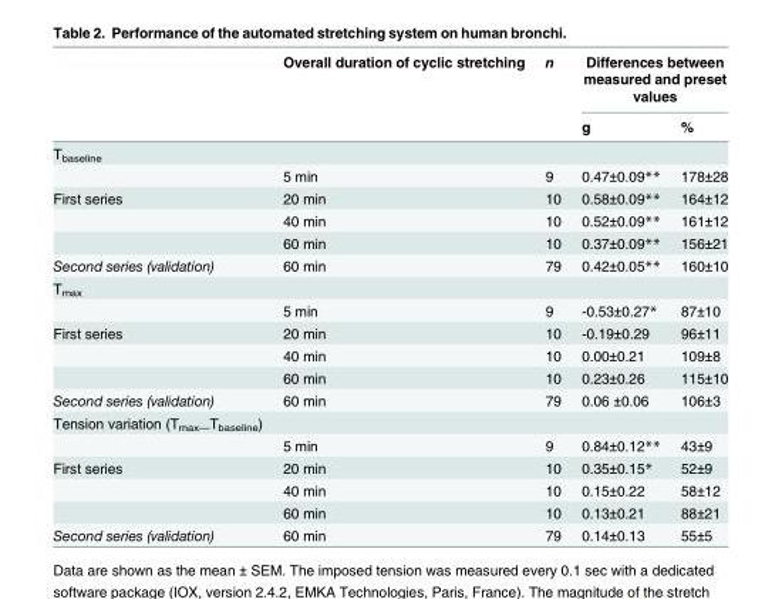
<table><thead><tr><td rowspan="2"></td><td rowspan="2">Overall duration of cyclic stretching</td><td rowspan="2">n</td><td colspan="2">Differences between measured and preset values</td></tr><tr><td>g</td><td>%</td></tr></thead><tbody><tr><td colspan="5">T<sub>baseline</sub></td></tr><tr><td></td><td>5 min</td><td>9</td><td>0.47±0.09**</td><td>178±28</td></tr><tr><td rowspan="3">First series</td><td>20 min</td><td>10</td><td>0.58±0.09**</td><td>164±12</td></tr><tr><td>40 min</td><td>10</td><td>0.52±0.09**</td><td>161±12</td></tr><tr><td>60 min</td><td>10</td><td>0.37±0.09**</td><td>156±21</td></tr><tr><td>Second series (validation)</td><td>60 min</td><td>79</td><td>0.42±0.05**</td><td>160±10</td></tr><tr><td colspan="5">T<sub>max</sub></td></tr><tr><td></td><td>5 min</td><td>9</td><td>-0.53±0.27*</td><td>87±10</td></tr><tr><td rowspan="3">First series</td><td>20 min</td><td>10</td><td>-0.19±0.29</td><td>96±11</td></tr><tr><td>40 min</td><td>10</td><td>0.00±0.21</td><td>109±8</td></tr><tr><td>60 min</td><td>10</td><td>0.23±0.26</td><td>115±10</td></tr><tr><td>Second series (validation)</td><td>60 min</td><td>79</td><td>0.06 ±0.06</td><td>106±3</td></tr><tr><td colspan="5">Tension variation (T<sub>max—</sub>T<sub>baseline</sub>)</td></tr><tr><td></td><td>5 min</td><td>9</td><td>0.84±0.12**</td><td>43±9</td></tr><tr><td rowspan="3">First series</td><td>20 min</td><td>10</td><td>0.35±0.15*</td><td>52±9</td></tr><tr><td>40 min</td><td>10</td><td>0.15±0.22</td><td>58±12</td></tr><tr><td>60 min</td><td>10</td><td>0.13±0.21</td><td>88±21</td></tr><tr><td>Second series (validation)</td><td>60 min</td><td>79</td><td>0.14±0.13</td><td>55±5</td></tr></tbody></table>